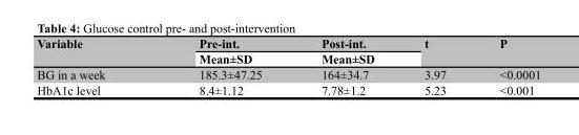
<table><thead><tr><td rowspan="2">Variable</td><td rowspan="2">Pre-int. Mean±SD</td><td rowspan="2">Post-int. Mean±SD</td><td rowspan="2">t</td><td rowspan="2">P</td></tr><tr></tr></thead><tbody><tr><td>BG in a week</td><td>185.3±47.25</td><td>164±34.7</td><td>3.97</td><td>&lt;0.0001</td></tr><tr><td>HbA1c level</td><td>8.4±1.12</td><td>7.78±1.2</td><td>5.23</td><td>&lt;0.001</td></tr></tbody></table>